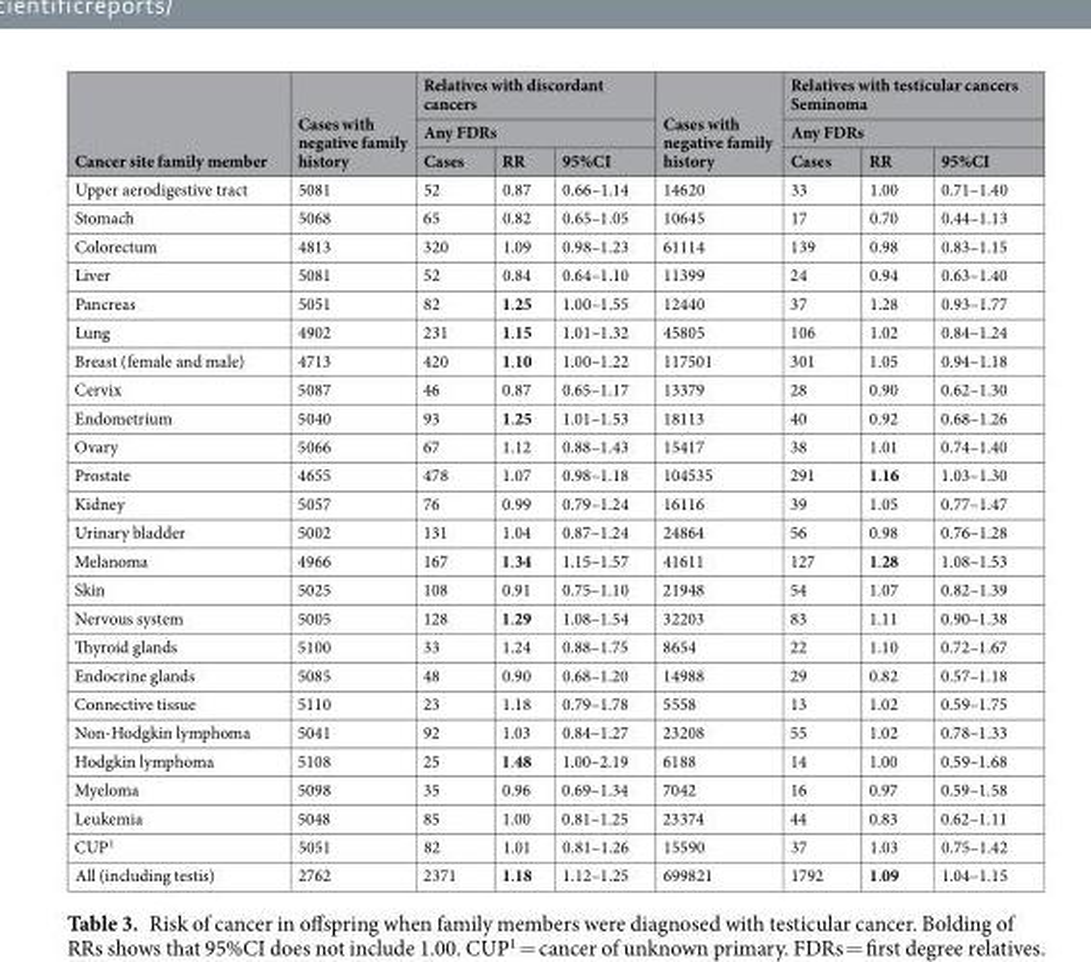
<table><thead><tr><td rowspan="3">Cancer site family member</td><td rowspan="3">Cases with negative family history</td><td rowspan="2" colspan="3">Relatives with discordant cancers Any FDRs</td><td rowspan="3">Cases with negative family history</td><td rowspan="2" colspan="3">Relatives with testicular cancers Seminoma Any FDRs</td></tr><tr></tr><tr><td>Cases</td><td>RR</td><td>95%CI</td><td>Cases</td><td>RR</td><td>95%CI</td></tr></thead><tbody><tr><td>Upper aerodigestive tract</td><td>5081</td><td>52</td><td>0.87</td><td>0.66–1.14</td><td>14620</td><td>33</td><td>1.00</td><td>0.71–1.40</td></tr><tr><td>Stomach</td><td>5068</td><td>65</td><td>0.82</td><td>0.65–1.05</td><td>10645</td><td>17</td><td>0.70</td><td>0.44–1.13</td></tr><tr><td>Colorectum</td><td>4813</td><td>320</td><td>1.09</td><td>0.98–1.23</td><td>61114</td><td>139</td><td>0.98</td><td>0.83–1.15</td></tr><tr><td>Liver</td><td>5081</td><td>52</td><td>0.84</td><td>0.64–1.10</td><td>11399</td><td>24</td><td>0.94</td><td>0.63–1.40</td></tr><tr><td>Pancreas</td><td>5051</td><td>82</td><td>1.25</td><td>1.00–1.55</td><td>12440</td><td>37</td><td>1.28</td><td>0.93–1.77</td></tr><tr><td>Lung</td><td>4902</td><td>231</td><td>1.15</td><td>1.01–1.32</td><td>45805</td><td>106</td><td>1.02</td><td>0.84–1.24</td></tr><tr><td>Breast (female and male)</td><td>4713</td><td>420</td><td>1.10</td><td>1.00–1.22</td><td>117501</td><td>301</td><td>1.05</td><td>0.94–1.18</td></tr><tr><td>Cervix</td><td>5087</td><td>46</td><td>0.87</td><td>0.65–1.17</td><td>13379</td><td>28</td><td>0.90</td><td>0.62–1.30</td></tr><tr><td>Endometrium</td><td>5040</td><td>93</td><td>1.25</td><td>1.01–1.53</td><td>18113</td><td>40</td><td>0.92</td><td>0.68–1.26</td></tr><tr><td>Ovary</td><td>5066</td><td>67</td><td>1.12</td><td>0.88–1.43</td><td>15417</td><td>38</td><td>1.01</td><td>0.74–1.40</td></tr><tr><td>Prostate</td><td>4655</td><td>478</td><td>1.07</td><td>0.98–1.18</td><td>104535</td><td>291</td><td>1.16</td><td>1.03–1.30</td></tr><tr><td>Kidney</td><td>5057</td><td>76</td><td>0.99</td><td>0.79–1.24</td><td>16116</td><td>39</td><td>1.05</td><td>0.77–1.47</td></tr><tr><td>Urinary bladder</td><td>5002</td><td>131</td><td>1.04</td><td>0.87–1.24</td><td>24864</td><td>56</td><td>0.98</td><td>0.76–1.28</td></tr><tr><td>Melanoma</td><td>4966</td><td>167</td><td>1.34</td><td>1.15–1.57</td><td>41611</td><td>127</td><td>1.28</td><td>1.08–1.53</td></tr><tr><td>Skin</td><td>5025</td><td>108</td><td>0.91</td><td>0.75–1.10</td><td>21948</td><td>54</td><td>1.07</td><td>0.82–1.39</td></tr><tr><td>Nervous system</td><td>5005</td><td>128</td><td>1.29</td><td>1.08–1.54</td><td>32203</td><td>83</td><td>1.11</td><td>0.90–1.38</td></tr><tr><td>Thyroid glands</td><td>5100</td><td>33</td><td>1.24</td><td>0.88–1.75</td><td>8654</td><td>22</td><td>1.10</td><td>0.72–1.67</td></tr><tr><td>Endocrine glands</td><td>5085</td><td>48</td><td>0.90</td><td>0.68–1.20</td><td>14988</td><td>29</td><td>0.82</td><td>0.57–1.18</td></tr><tr><td>Connective tissue</td><td>5110</td><td>23</td><td>1.18</td><td>0.79–1.78</td><td>5558</td><td>13</td><td>1.02</td><td>0.59–1.75</td></tr><tr><td>Non-Hodgkin lymphoma</td><td>5041</td><td>92</td><td>1.03</td><td>0.84–1.27</td><td>23208</td><td>55</td><td>1.02</td><td>0.78–1.33</td></tr><tr><td>Hodgkin lymphoma</td><td>5108</td><td>25</td><td>1.48</td><td>1.00–2.19</td><td>6188</td><td>14</td><td>1.00</td><td>0.59–1.68</td></tr><tr><td>Myeloma</td><td>5098</td><td>35</td><td>0.96</td><td>0.69–1.34</td><td>7042</td><td>16</td><td>0.97</td><td>0.59–1.58</td></tr><tr><td>Leukemia</td><td>5048</td><td>85</td><td>1.00</td><td>0.81–1.25</td><td>23374</td><td>44</td><td>0.83</td><td>0.62–1.11</td></tr><tr><td>CUP<sup>1</sup></td><td>5051</td><td>82</td><td>1.01</td><td>0.81–1.26</td><td>15590</td><td>37</td><td>1.03</td><td>0.75–1.42</td></tr><tr><td>All (including testis)</td><td>2762</td><td>2371</td><td>1.18</td><td>1.12–1.25</td><td>699821</td><td>1792</td><td>1.09</td><td>1.04–1.15</td></tr></tbody></table>